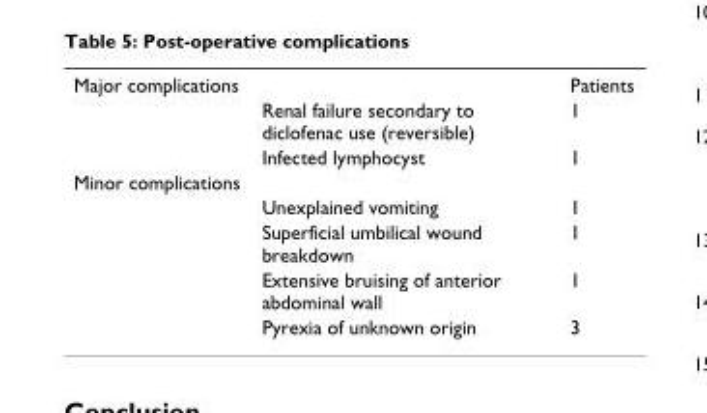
<table><tbody><tr><td rowspan="3">Major complications</td><td></td><td>Patients</td></tr><tr><td>Renal failure secondary to diclofenac use (reversible)</td><td>1</td></tr><tr><td>Infected lymphocyst</td><td>1</td></tr><tr><td colspan="3">Minor complications</td></tr><tr><td></td><td>Unexplained vomiting</td><td>1</td></tr><tr><td></td><td>Superficial umbilical wound breakdown</td><td>1</td></tr><tr><td></td><td>Extensive bruising of anterior abdominal wall</td><td>1</td></tr><tr><td></td><td>Pyrexia of unknown origin</td><td>3</td></tr></tbody></table>